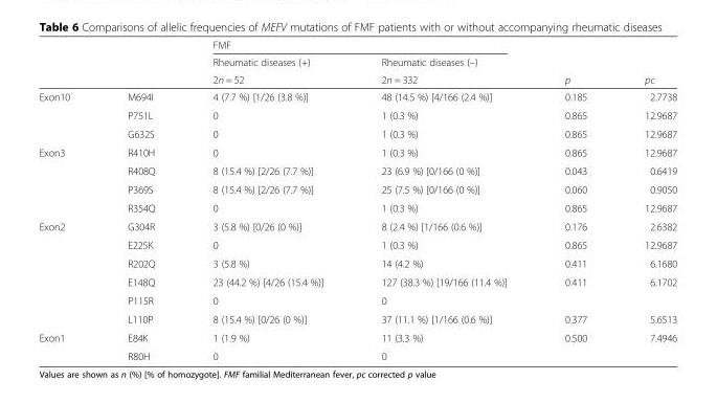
<table><thead><tr><td rowspan="3"></td><td rowspan="3"></td><td colspan="2">FMF</td><td rowspan="3">p</td><td rowspan="3">pc</td></tr><tr><td rowspan="2">Rheumatic diseases (+) 2n = 52</td><td rowspan="2">Rheumatic diseases (–) 2n = 332</td></tr><tr></tr></thead><tbody><tr><td rowspan="3">Exon10</td><td>M694I</td><td>4 (7.7 %) [1/26 (3.8 %)]</td><td>48 (14.5 %) [4/166 (2.4 %)]</td><td>0.185</td><td>2.7738</td></tr><tr><td>P751L</td><td>0</td><td>1 (0.3 %)</td><td>0.865</td><td>12.9687</td></tr><tr><td>G632S</td><td>0</td><td>1 (0.3 %)</td><td>0.865</td><td>12.9687</td></tr><tr><td rowspan="4">Exon3</td><td>R410H</td><td>0</td><td>1 (0.3 %)</td><td>0.865</td><td>12.9687</td></tr><tr><td>R408Q</td><td>8 (15.4 %) [2/26 (7.7 %)]</td><td>23 (6.9 %) [0/166 (0 %)]</td><td>0.043</td><td>0.6419</td></tr><tr><td>P369S</td><td>8 (15.4 %) [2/26 (7.7 %)]</td><td>25 (7.5 %) [0/166 (0 %)]</td><td>0.060</td><td>0.9050</td></tr><tr><td>R354Q</td><td>0</td><td>1 (0.3 %)</td><td>0.865</td><td>12.9687</td></tr><tr><td rowspan="6">Exon2</td><td>G304R</td><td>3 (5.8 %) [0/26 (0 %)]</td><td>8 (2.4 %) [1/166 (0.6 %)]</td><td>0.176</td><td>2.6382</td></tr><tr><td>E225K</td><td>0</td><td>1 (0.3 %)</td><td>0.865</td><td>12.9687</td></tr><tr><td>R202Q</td><td>3 (5.8 %)</td><td>14 (4.2 %)</td><td>0.411</td><td>6.1680</td></tr><tr><td>E148Q</td><td>23 (44.2 %) [4/26 (15.4 %)]</td><td>127 (38.3 %) [19/166 (11.4 %)]</td><td>0.411</td><td>6.1702</td></tr><tr><td>P115R</td><td>0</td><td>0</td><td></td><td></td></tr><tr><td>L110P</td><td>8 (15.4 %) [0/26 (0 %)]</td><td>37 (11.1 %) [1/166 (0.6 %)]</td><td>0.377</td><td>5.6513</td></tr><tr><td rowspan="2">Exon1</td><td>E84K</td><td>1 (1.9 %)</td><td>11 (3.3 %)</td><td>0.500</td><td>7.4946</td></tr><tr><td>R80H</td><td>0</td><td>0</td><td></td><td></td></tr></tbody></table>